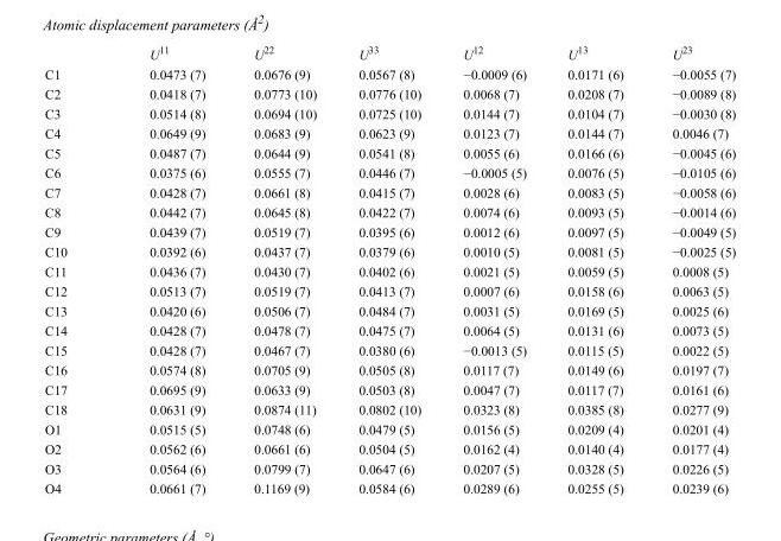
<table><thead><tr><td></td><td>U11</td><td>U22</td><td>U33</td><td>U12</td><td>U13</td><td>U23</td></tr></thead><tbody><tr><td>C1</td><td>0.0473 (7)</td><td>0.0676 (9)</td><td>0.0567 (8)</td><td>−0.0009 (6)</td><td>0.0171 (6)</td><td>−0.0055 (7)</td></tr><tr><td>C2</td><td>0.0418 (7)</td><td>0.0773 (10)</td><td>0.0776 (10)</td><td>0.0068 (7)</td><td>0.0208 (7)</td><td>−0.0089 (8)</td></tr><tr><td>C3</td><td>0.0514 (8)</td><td>0.0694 (10)</td><td>0.0725 (10)</td><td>0.0144 (7)</td><td>0.0104 (7)</td><td>−0.0030 (8)</td></tr><tr><td>C4</td><td>0.0649 (9)</td><td>0.0683 (9)</td><td>0.0623 (9)</td><td>0.0123 (7)</td><td>0.0144 (7)</td><td>0.0046 (7)</td></tr><tr><td>C5</td><td>0.0487 (7)</td><td>0.0644 (9)</td><td>0.0541 (8)</td><td>0.0055 (6)</td><td>0.0166 (6)</td><td>−0.0045 (6)</td></tr><tr><td>C6</td><td>0.0375 (6)</td><td>0.0555 (7)</td><td>0.0446 (7)</td><td>−0.0005 (5)</td><td>0.0076 (5)</td><td>−0.0105 (6)</td></tr><tr><td>C7</td><td>0.0428 (7)</td><td>0.0661 (8)</td><td>0.0415 (7)</td><td>0.0028 (6)</td><td>0.0083 (5)</td><td>−0.0058 (6)</td></tr><tr><td>C8</td><td>0.0442 (7)</td><td>0.0645 (8)</td><td>0.0422 (7)</td><td>0.0074 (6)</td><td>0.0093 (5)</td><td>−0.0014 (6)</td></tr><tr><td>C9</td><td>0.0439 (7)</td><td>0.0519 (7)</td><td>0.0395 (6)</td><td>0.0012 (6)</td><td>0.0097 (5)</td><td>−0.0049 (5)</td></tr><tr><td>C10</td><td>0.0392 (6)</td><td>0.0437 (7)</td><td>0.0379 (6)</td><td>0.0010 (5)</td><td>0.0081 (5)</td><td>−0.0025 (5)</td></tr><tr><td>C11</td><td>0.0436 (7)</td><td>0.0430 (7)</td><td>0.0402 (6)</td><td>0.0021 (5)</td><td>0.0059 (5)</td><td>0.0008 (5)</td></tr><tr><td>C12</td><td>0.0513 (7)</td><td>0.0519 (7)</td><td>0.0413 (7)</td><td>0.0007 (6)</td><td>0.0158 (6)</td><td>0.0063 (5)</td></tr><tr><td>C13</td><td>0.0420 (6)</td><td>0.0506 (7)</td><td>0.0484 (7)</td><td>0.0031 (5)</td><td>0.0169 (5)</td><td>0.0025 (6)</td></tr><tr><td>C14</td><td>0.0428 (7)</td><td>0.0478 (7)</td><td>0.0475 (7)</td><td>0.0064 (5)</td><td>0.0131 (6)</td><td>0.0073 (5)</td></tr><tr><td>C15</td><td>0.0428 (7)</td><td>0.0467 (7)</td><td>0.0380 (6)</td><td>−0.0013 (5)</td><td>0.0115 (5)</td><td>0.0022 (5)</td></tr><tr><td>C16</td><td>0.0574 (8)</td><td>0.0705 (9)</td><td>0.0505 (8)</td><td>0.0117 (7)</td><td>0.0149 (6)</td><td>0.0197 (7)</td></tr><tr><td>C17</td><td>0.0695 (9)</td><td>0.0633 (9)</td><td>0.0503 (8)</td><td>0.0047 (7)</td><td>0.0117 (7)</td><td>0.0161 (6)</td></tr><tr><td>C18</td><td>0.0631 (9)</td><td>0.0874 (11)</td><td>0.0802 (10)</td><td>0.0323 (8)</td><td>0.0385 (8)</td><td>0.0277 (9)</td></tr><tr><td>O1</td><td>0.0515 (5)</td><td>0.0748 (6)</td><td>0.0479 (5)</td><td>0.0156 (5)</td><td>0.0209 (4)</td><td>0.0201 (4)</td></tr><tr><td>O2</td><td>0.0562 (6)</td><td>0.0661 (6)</td><td>0.0504 (5)</td><td>0.0162 (4)</td><td>0.0140 (4)</td><td>0.0177 (4)</td></tr><tr><td>O3</td><td>0.0564 (6)</td><td>0.0799 (7)</td><td>0.0647 (6)</td><td>0.0207 (5)</td><td>0.0328 (5)</td><td>0.0226 (5)</td></tr><tr><td>O4</td><td>0.0661 (7)</td><td>0.1169 (9)</td><td>0.0584 (6)</td><td>0.0289 (6)</td><td>0.0255 (5)</td><td>0.0239 (6)</td></tr></tbody></table>